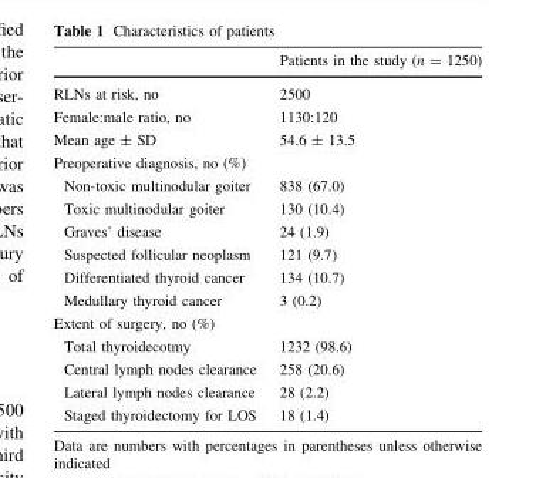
<table><thead><tr><td></td><td>Patients in the study (n = 1250)</td></tr></thead><tbody><tr><td>RLNs at risk, no</td><td>2500</td></tr><tr><td>Female:male ratio, no</td><td>1130:120</td></tr><tr><td>Mean age ± SD</td><td>54.6 ± 13.5</td></tr><tr><td colspan="2">Preoperative diagnosis, no (%)</td></tr><tr><td>Non-toxic multinodular goiter</td><td>838 (67.0)</td></tr><tr><td>Toxic multinodular goiter</td><td>130 (10.4)</td></tr><tr><td>Graves’ disease</td><td>24 (1.9)</td></tr><tr><td>Suspected follicular neoplasm</td><td>121 (9.7)</td></tr><tr><td>Differentiated thyroid cancer</td><td>134 (10.7)</td></tr><tr><td>Medullary thyroid cancer</td><td>3 (0.2)</td></tr><tr><td colspan="2">Extent of surgery, no (%)</td></tr><tr><td>Total thyroidecotmy</td><td>1232 (98.6)</td></tr><tr><td>Central lymph nodes clearance</td><td>258 (20.6)</td></tr><tr><td>Lateral lymph nodes clearance</td><td>28 (2.2)</td></tr><tr><td>Staged thyroidectomy for LOS</td><td>18 (1.4)</td></tr></tbody></table>